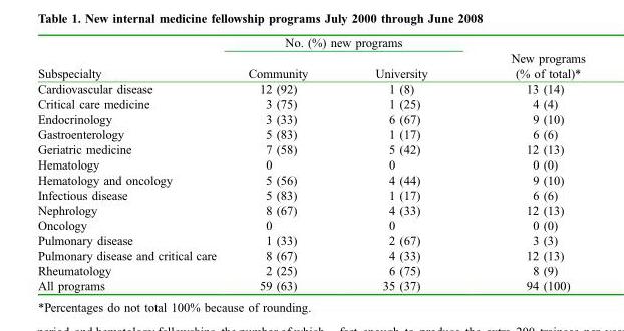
<table><thead><tr><td rowspan="2">Subspecialty</td><td colspan="2">No. (%) new programs</td><td rowspan="2">New programs (% of total)*</td></tr><tr><td>Community</td><td>University</td></tr></thead><tbody><tr><td>Cardiovascular disease</td><td>12 (92)</td><td>1 (8)</td><td>13 (14)</td></tr><tr><td>Critical care medicine</td><td>3 (75)</td><td>1 (25)</td><td>4 (4)</td></tr><tr><td>Endocrinology</td><td>3 (33)</td><td>6 (67)</td><td>9 (10)</td></tr><tr><td>Gastroenterology</td><td>5 (83)</td><td>1 (17)</td><td>6 (6)</td></tr><tr><td>Geriatric medicine</td><td>7 (58)</td><td>5 (42)</td><td>12 (13)</td></tr><tr><td>Hematology</td><td>0</td><td>0</td><td>0 (0)</td></tr><tr><td>Hematology and oncology</td><td>5 (56)</td><td>4 (44)</td><td>9 (10)</td></tr><tr><td>Infectious disease</td><td>5 (83)</td><td>1 (17)</td><td>6 (6)</td></tr><tr><td>Nephrology</td><td>8 (67)</td><td>4 (33)</td><td>12 (13)</td></tr><tr><td>Oncology</td><td>0</td><td>0</td><td>0 (0)</td></tr><tr><td>Pulmonary disease</td><td>1 (33)</td><td>2 (67)</td><td>3 (3)</td></tr><tr><td>Pulmonary disease and critical care</td><td>8 (67)</td><td>4 (33)</td><td>12 (13)</td></tr><tr><td>Rheumatology</td><td>2 (25)</td><td>6 (75)</td><td>8 (9)</td></tr><tr><td>All programs</td><td>59 (63)</td><td>35 (37)</td><td>94 (100)</td></tr></tbody></table>